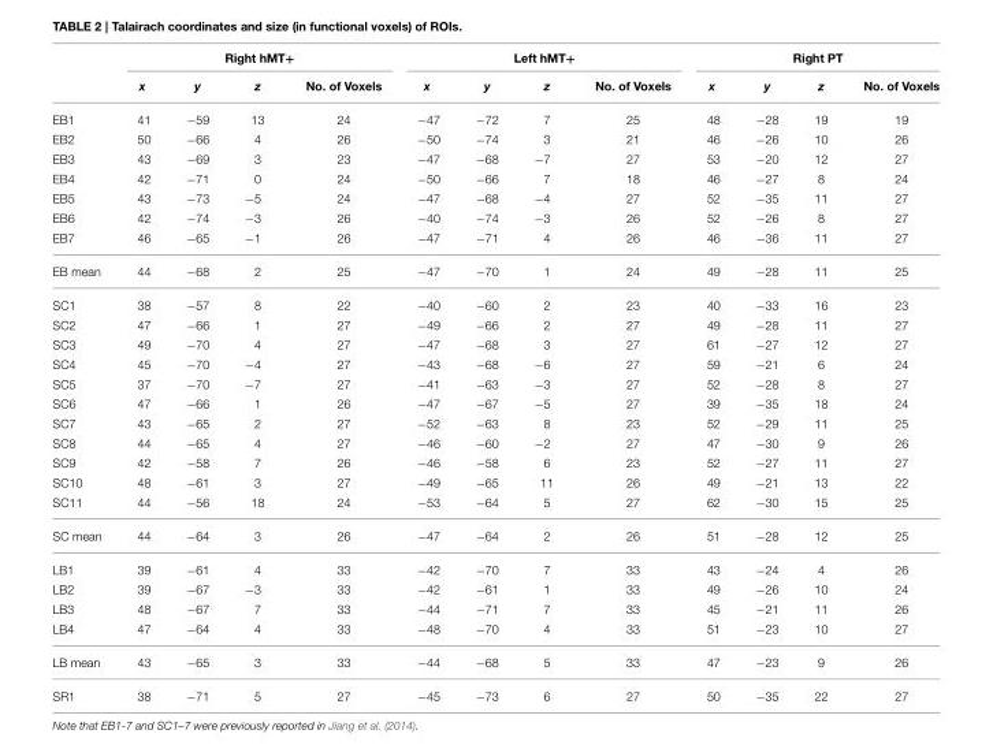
<table><thead><tr><td rowspan="2"></td><td colspan="4">Right hMT+</td><td colspan="4">Left hMT+</td><td colspan="4">Right PT</td></tr><tr><td>x</td><td>y</td><td>z</td><td>No. of Voxels</td><td>x</td><td>y</td><td>z</td><td>No. of Voxels</td><td>x</td><td>y</td><td>z</td><td>No. of Voxels</td></tr></thead><tbody><tr><td>EB1</td><td>41</td><td>−59</td><td>13</td><td>24</td><td>−47</td><td>−72</td><td>7</td><td>25</td><td>48</td><td>−28</td><td>19</td><td>19</td></tr><tr><td>EB2</td><td>50</td><td>−66</td><td>4</td><td>26</td><td>−50</td><td>−74</td><td>3</td><td>21</td><td>46</td><td>−26</td><td>10</td><td>26</td></tr><tr><td>EB3</td><td>43</td><td>−69</td><td>3</td><td>23</td><td>−47</td><td>−68</td><td>−7</td><td>27</td><td>53</td><td>−20</td><td>12</td><td>27</td></tr><tr><td>EB4</td><td>42</td><td>−71</td><td>0</td><td>24</td><td>−50</td><td>−66</td><td>7</td><td>18</td><td>46</td><td>−27</td><td>8</td><td>24</td></tr><tr><td>EB5</td><td>43</td><td>−73</td><td>−5</td><td>24</td><td>−47</td><td>−68</td><td>−4</td><td>27</td><td>52</td><td>−35</td><td>11</td><td>27</td></tr><tr><td>EB6</td><td>42</td><td>−74</td><td>−3</td><td>26</td><td>−40</td><td>−74</td><td>−3</td><td>26</td><td>52</td><td>−26</td><td>8</td><td>27</td></tr><tr><td>EB7</td><td>46</td><td>−65</td><td>−1</td><td>26</td><td>−47</td><td>−71</td><td>4</td><td>26</td><td>46</td><td>−36</td><td>11</td><td>27</td></tr><tr><td>EB mean</td><td>44</td><td>−68</td><td>2</td><td>25</td><td>−47</td><td>−70</td><td>1</td><td>24</td><td>49</td><td>−28</td><td>11</td><td>25</td></tr><tr><td>SC1</td><td>38</td><td>−57</td><td>8</td><td>22</td><td>−40</td><td>−60</td><td>2</td><td>23</td><td>40</td><td>−33</td><td>16</td><td>23</td></tr><tr><td>SC2</td><td>47</td><td>−66</td><td>1</td><td>27</td><td>−49</td><td>−66</td><td>2</td><td>27</td><td>49</td><td>−28</td><td>11</td><td>27</td></tr><tr><td>SC3</td><td>49</td><td>−70</td><td>4</td><td>27</td><td>−47</td><td>−68</td><td>3</td><td>27</td><td>61</td><td>−27</td><td>12</td><td>27</td></tr><tr><td>SC4</td><td>45</td><td>−70</td><td>−4</td><td>27</td><td>−43</td><td>−68</td><td>−6</td><td>27</td><td>59</td><td>−21</td><td>6</td><td>24</td></tr><tr><td>SC5</td><td>37</td><td>−70</td><td>−7</td><td>27</td><td>−41</td><td>−63</td><td>−3</td><td>27</td><td>52</td><td>−28</td><td>8</td><td>27</td></tr><tr><td>SC6</td><td>47</td><td>−66</td><td>1</td><td>26</td><td>−47</td><td>−67</td><td>−5</td><td>27</td><td>39</td><td>−35</td><td>18</td><td>24</td></tr><tr><td>SC7</td><td>43</td><td>−65</td><td>2</td><td>27</td><td>−52</td><td>−63</td><td>8</td><td>23</td><td>52</td><td>−29</td><td>11</td><td>25</td></tr><tr><td>SC8</td><td>44</td><td>−65</td><td>4</td><td>27</td><td>−46</td><td>−60</td><td>−2</td><td>27</td><td>47</td><td>−30</td><td>9</td><td>26</td></tr><tr><td>SC9</td><td>42</td><td>−58</td><td>7</td><td>26</td><td>−46</td><td>−58</td><td>6</td><td>23</td><td>52</td><td>−27</td><td>11</td><td>27</td></tr><tr><td>SC10</td><td>48</td><td>−61</td><td>3</td><td>27</td><td>−49</td><td>−65</td><td>11</td><td>26</td><td>49</td><td>−21</td><td>13</td><td>22</td></tr><tr><td>SC11</td><td>44</td><td>−56</td><td>18</td><td>24</td><td>−53</td><td>−64</td><td>5</td><td>27</td><td>62</td><td>−30</td><td>15</td><td>25</td></tr><tr><td>SC mean</td><td>44</td><td>−64</td><td>3</td><td>26</td><td>−47</td><td>−64</td><td>2</td><td>26</td><td>51</td><td>−28</td><td>12</td><td>25</td></tr><tr><td>LB1</td><td>39</td><td>−61</td><td>4</td><td>33</td><td>−42</td><td>−70</td><td>7</td><td>33</td><td>43</td><td>−24</td><td>4</td><td>26</td></tr><tr><td>LB2</td><td>39</td><td>−67</td><td>−3</td><td>33</td><td>−42</td><td>−61</td><td>1</td><td>33</td><td>49</td><td>−26</td><td>10</td><td>24</td></tr><tr><td>LB3</td><td>48</td><td>−67</td><td>7</td><td>33</td><td>−44</td><td>−71</td><td>7</td><td>33</td><td>45</td><td>−21</td><td>11</td><td>26</td></tr><tr><td>LB4</td><td>47</td><td>−64</td><td>4</td><td>33</td><td>−48</td><td>−70</td><td>4</td><td>33</td><td>51</td><td>−23</td><td>10</td><td>27</td></tr><tr><td>LB mean</td><td>43</td><td>−65</td><td>3</td><td>33</td><td>−44</td><td>−68</td><td>5</td><td>33</td><td>47</td><td>−23</td><td>9</td><td>26</td></tr><tr><td>SR1</td><td>38</td><td>−71</td><td>5</td><td>27</td><td>−45</td><td>−73</td><td>6</td><td>27</td><td>50</td><td>−35</td><td>22</td><td>27</td></tr></tbody></table>